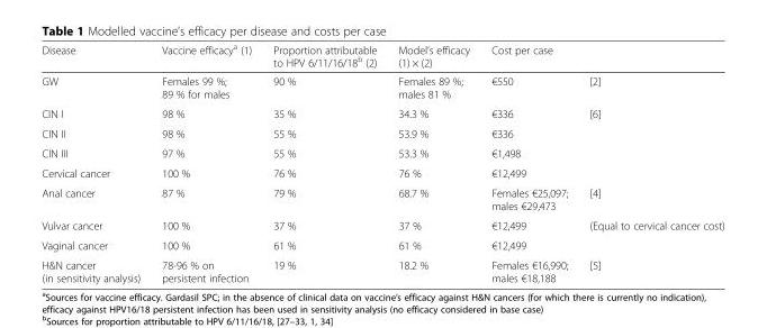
<table><thead><tr><td rowspan="2">Disease GW</td><td rowspan="2">Vaccine efficacy<sup>a</sup> (1) Females 99 %; 89 % for males</td><td rowspan="2">Proportion attributable to HPV 6/11/16/18<sup>b</sup> (2) 90 %</td><td rowspan="2">Model’s efficacy (1) × (2) Females 89 %; males 81 %</td><td colspan="2">Cost per case</td></tr><tr><td>€550</td><td>[2]</td></tr></thead><tbody><tr><td>CIN I</td><td>98 %</td><td>35 %</td><td>34.3 %</td><td>€336</td><td rowspan="4">[6]</td></tr><tr><td>CIN II</td><td>98 %</td><td>55 %</td><td>53.9 %</td><td>€336</td></tr><tr><td>CIN III</td><td>97 %</td><td>55 %</td><td>53.3 %</td><td>€1,498</td></tr><tr><td>Cervical cancer</td><td>100 %</td><td>76 %</td><td>76 %</td><td>€12,499</td></tr><tr><td>Anal cancer</td><td>87 %</td><td>79 %</td><td>68.7 %</td><td>Females €25,097; males €29,473</td><td>[4]</td></tr><tr><td>Vulvar cancer</td><td>100 %</td><td>37 %</td><td>37 %</td><td>€12,499</td><td rowspan="2">(Equal to cervical cancer cost)</td></tr><tr><td>Vaginal cancer</td><td>100 %</td><td>61 %</td><td>61 %</td><td>€12,499</td></tr><tr><td>H&amp;N cancer (in sensitivity analysis)</td><td>78-96 % on persistent infection</td><td>19 %</td><td>18.2 %</td><td>Females €16,990; males €18,188</td><td>[5]</td></tr></tbody></table>